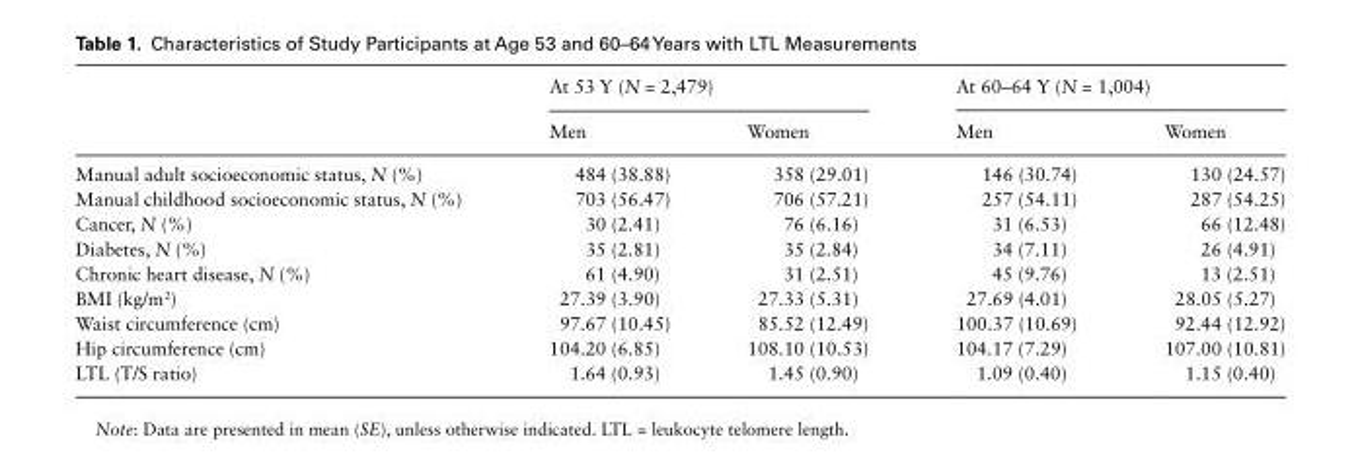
<table><thead><tr><td rowspan="2"></td><td colspan="2">At 53 Y (N = 2,479)</td><td colspan="2">At 60–64 Y (N = 1,004)</td></tr><tr><td>Men</td><td>Women</td><td>Men</td><td>Women</td></tr></thead><tbody><tr><td>Manual adult socioeconomic status, N (%)</td><td>484 (38.88)</td><td>358 (29.01)</td><td>146 (30.74)</td><td>130 (24.57)</td></tr><tr><td>Manual childhood socioeconomic status, N (%)</td><td>703 (56.47)</td><td>706 (57.21)</td><td>257 (54.11)</td><td>287 (54.25)</td></tr><tr><td>Cancer, N (%)</td><td>30 (2.41)</td><td>76 (6.16)</td><td>31 (6.53)</td><td>66 (12.48)</td></tr><tr><td>Diabetes, N (%)</td><td>35 (2.81)</td><td>35 (2.84)</td><td>34 (7.11)</td><td>26 (4.91)</td></tr><tr><td>Chronic heart disease, N (%)</td><td>61 (4.90)</td><td>31 (2.51)</td><td>45 (9.76)</td><td>13 (2.51)</td></tr><tr><td>BMI (kg/m<sup>2</sup>)</td><td>27.39 (3.90)</td><td>27.33 (5.31)</td><td>27.69 (4.01)</td><td>28.05 (5.27)</td></tr><tr><td>Waist circumference (cm)</td><td>97.67 (10.45)</td><td>85.52 (12.49)</td><td>100.37 (10.69)</td><td>92.44 (12.92)</td></tr><tr><td>Hip circumference (cm)</td><td>104.20 (6.85)</td><td>108.10 (10.53)</td><td>104.17 (7.29)</td><td>107.00 (10.81)</td></tr><tr><td>LTL (T/S ratio)</td><td>1.64 (0.93)</td><td>1.45 (0.90)</td><td>1.09 (0.40)</td><td>1.15 (0.40)</td></tr></tbody></table>